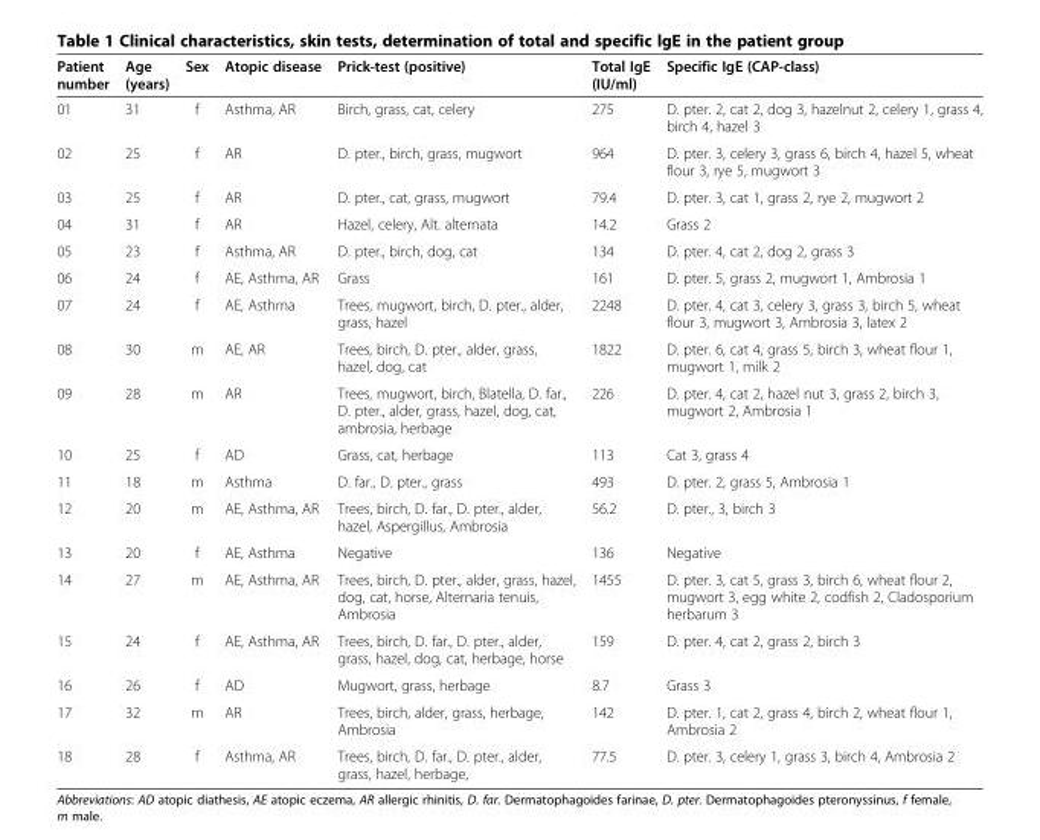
<table><thead><tr><td>Patient number</td><td>Age (years)</td><td>Sex</td><td>Atopic disease</td><td>Prick-test (positive)</td><td>Total IgE (IU/ml)</td><td>Specific IgE (CAP-class)</td></tr></thead><tbody><tr><td>01</td><td>31</td><td>f</td><td>Asthma, AR</td><td>Birch, grass, cat, celery</td><td>275</td><td>D. pter. 2, cat 2, dog 3, hazelnut 2, celery 1, grass 4, birch 4, hazel 3</td></tr><tr><td>02</td><td>25</td><td>f</td><td>AR</td><td>D. pter., birch, grass, mugwort</td><td>964</td><td>D. pter. 3, celery 3, grass 6, birch 4, hazel 5, wheat flour 3, rye 5, mugwort 3</td></tr><tr><td>03</td><td>25</td><td>f</td><td>AR</td><td>D. pter., cat, grass, mugwort</td><td>79.4</td><td>D. pter. 3, cat 1, grass 2, rye 2, mugwort 2</td></tr><tr><td>04</td><td>31</td><td>f</td><td>AR</td><td>Hazel, celery, Alt. alternata</td><td>14.2</td><td>Grass 2</td></tr><tr><td>05</td><td>23</td><td>f</td><td>Asthma, AR</td><td>D. pter., birch, dog, cat</td><td>134</td><td>D. pter. 4, cat 2, dog 2, grass 3</td></tr><tr><td>06</td><td>24</td><td>f</td><td>AE, Asthma, AR</td><td>Grass</td><td>161</td><td>D. pter. 5, grass 2, mugwort 1, Ambrosia 1</td></tr><tr><td>07</td><td>24</td><td>f</td><td>AE, Asthma</td><td>Trees, mugwort, birch, D. pter., alder, grass, hazel</td><td>2248</td><td>D. pter. 4, cat 3, celery 3, grass 3, birch 5, wheat flour 3, mugwort 3, Ambrosia 3, latex 2</td></tr><tr><td>08</td><td>30</td><td>m</td><td>AE, AR</td><td>Trees, birch, D. pter., alder, grass, hazel, dog, cat</td><td>1822</td><td>D. pter. 6, cat 4, grass 5, birch 3, wheat flour 1, mugwort 1, milk 2</td></tr><tr><td>09</td><td>28</td><td>m</td><td>AR</td><td>Trees, mugwort, birch, Blatella, D. far., D. pter., alder, grass, hazel, dog, cat, ambrosia, herbage</td><td>226</td><td>D. pter. 4, cat 2, hazel nut 3, grass 2, birch 3, mugwort 2, Ambrosia 1</td></tr><tr><td>10</td><td>25</td><td>f</td><td>AD</td><td>Grass, cat, herbage</td><td>113</td><td>Cat 3, grass 4</td></tr><tr><td>11</td><td>18</td><td>m</td><td>Asthma</td><td>D. far., D. pter., grass</td><td>493</td><td>D. pter. 2, grass 5, Ambrosia 1</td></tr><tr><td>12</td><td>20</td><td>m</td><td>AE, Asthma, AR</td><td>Trees, birch, D. far., D. pter., alder, hazel, Aspergillus, Ambrosia</td><td>56.2</td><td>D. pter., 3, birch 3</td></tr><tr><td>13</td><td>20</td><td>f</td><td>AE, Asthma</td><td>Negative</td><td>136</td><td>Negative</td></tr><tr><td>14</td><td>27</td><td>m</td><td>AE, Asthma, AR</td><td>Trees, birch, D. pter., alder, grass, hazel, dog, cat, horse, Alternaria tenuis, Ambrosia</td><td>1455</td><td>D. pter. 3, cat 5, grass 3, birch 6, wheat flour 2, mugwort 3, egg white 2, codfish 2, Cladosporium herbarum 3</td></tr><tr><td>15</td><td>24</td><td>f</td><td>AE, Asthma, AR</td><td>Trees, birch, D. far., D. pter., alder, grass, hazel, dog, cat, herbage, horse</td><td>159</td><td>D. pter. 4, cat 2, grass 2, birch 3</td></tr><tr><td>16</td><td>26</td><td>f</td><td>AD</td><td>Mugwort, grass, herbage</td><td>8.7</td><td>Grass 3</td></tr><tr><td>17</td><td>32</td><td>m</td><td>AR</td><td>Trees, birch, alder, grass, herbage, Ambrosia</td><td>142</td><td>D. pter. 1, cat 2, grass 4, birch 2, wheat flour 1, Ambrosia 2</td></tr><tr><td>18</td><td>28</td><td>f</td><td>Asthma, AR</td><td>Trees, birch, D. far., D. pter., alder, grass, hazel, herbage,</td><td>77.5</td><td>D. pter. 3, celery 1, grass 3, birch 4, Ambrosia 2</td></tr></tbody></table>